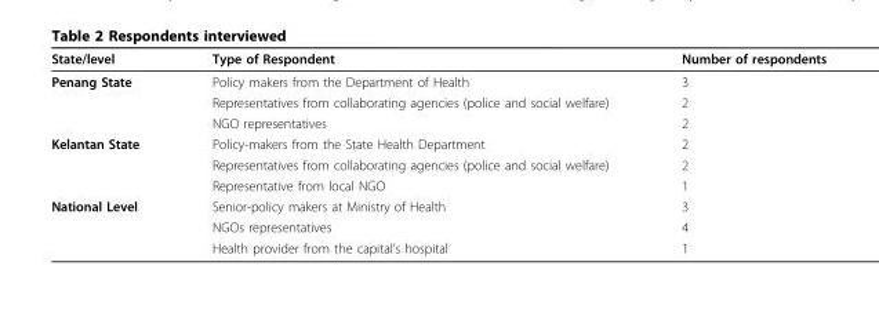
<table><thead><tr><td>State/level</td><td>Type of Respondent</td><td>Number of respondents</td></tr></thead><tbody><tr><td rowspan="3">Penang State</td><td>Policy makers from the Department of Health</td><td>3</td></tr><tr><td>Representatives from collaborating agencies (police and social welfare)</td><td>2</td></tr><tr><td>NGO representatives</td><td>2</td></tr><tr><td rowspan="3">Kelantan State</td><td>Policy-makers from the State Health Department</td><td>2</td></tr><tr><td>Representatives from collaborating agencies (police and social welfare)</td><td>2</td></tr><tr><td>Representative from local NGO</td><td>1</td></tr><tr><td rowspan="3">National Level</td><td>Senior-policy makers at Ministry of Health</td><td>3</td></tr><tr><td>NGOs representatives</td><td>4</td></tr><tr><td>Health provider from the capital’s hospital</td><td>1</td></tr></tbody></table>